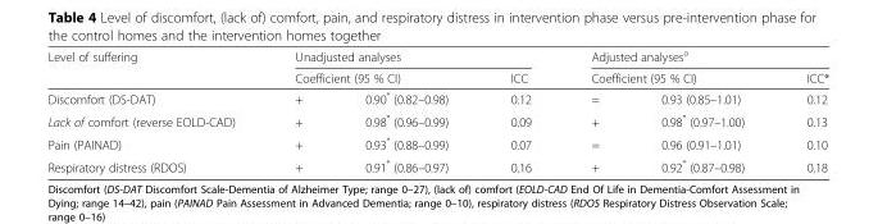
<table><thead><tr><td rowspan="3">Level of suffering Discomfort (DS-DAT)</td><td colspan="3">Unadjusted analyses</td><td colspan="3">Adjusted analyses<sup>a</sup></td></tr><tr><td colspan="2">Coefficient (95 % CI)</td><td rowspan="2">ICC 0.12</td><td colspan="2">Coefficient (95 % CI)</td><td rowspan="2">ICC* 0.12</td></tr><tr><td>+</td><td>0.90* (0.82–0.98)</td><td>=</td><td>0.93 (0.85–1.01)</td></tr></thead><tbody><tr><td>Lack of comfort (reverse EOLD-CAD)</td><td>+</td><td>0.98* (0.96–0.99)</td><td>0.09</td><td>+</td><td>0.98* (0.97–1.00)</td><td>0.13</td></tr><tr><td>Pain (PAINAD)</td><td>+</td><td>0.93* (0.88–0.99)</td><td>0.07</td><td>=</td><td>0.96 (0.91–1.01)</td><td>0.10</td></tr><tr><td>Respiratory distress (RDOS)</td><td>+</td><td>0.91* (0.86–0.97)</td><td>0.16</td><td>+</td><td>0.92* (0.87–0.98)</td><td>0.18</td></tr></tbody></table>